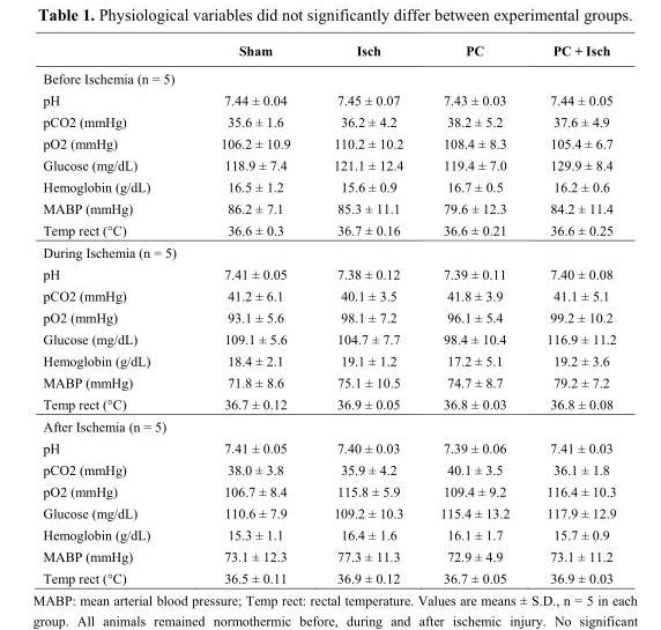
<table><thead><tr><td></td><td>Sham</td><td>Isch</td><td>PC</td><td>PC + Isch</td></tr></thead><tbody><tr><td colspan="5">Before Ischemia (n = 5)</td></tr><tr><td>pH</td><td>7.44 ± 0.04</td><td>7.45 ± 0.07</td><td>7.43 ± 0.03</td><td>7.44 ± 0.05</td></tr><tr><td>pCO2 (mmHg)</td><td>35.6 ± 1.6</td><td>36.2 ± 4.2</td><td>38.2 ± 5.2</td><td>37.6 ± 4.9</td></tr><tr><td>pO2 (mmHg)</td><td>106.2 ± 10.9</td><td>110.2 ± 10.2</td><td>108.4 ± 8.3</td><td>105.4 ± 6.7</td></tr><tr><td>Glucose (mg/dL)</td><td>118.9 ± 7.4</td><td>121.1 ± 12.4</td><td>119.4 ± 7.0</td><td>129.9 ± 8.4</td></tr><tr><td>Hemoglobin (g/dL)</td><td>16.5 ± 1.2</td><td>15.6 ± 0.9</td><td>16.7 ± 0.5</td><td>16.2 ± 0.6</td></tr><tr><td>MABP (mmHg)</td><td>86.2 ± 7.1</td><td>85.3 ± 11.1</td><td>79.6 ± 12.3</td><td>84.2 ± 11.4</td></tr><tr><td>Temp rect (°C)</td><td>36.6 ± 0.3</td><td>36.7 ± 0.16</td><td>36.6 ± 0.21</td><td>36.6 ± 0.25</td></tr><tr><td colspan="5">During Ischemia (n = 5)</td></tr><tr><td>pH</td><td>7.41 ± 0.05</td><td>7.38 ± 0.12</td><td>7.39 ± 0.11</td><td>7.40 ± 0.08</td></tr><tr><td>pCO2 (mmHg)</td><td>41.2 ± 6.1</td><td>40.1 ± 3.5</td><td>41.8 ± 3.9</td><td>41.1 ± 5.1</td></tr><tr><td>pO2 (mmHg)</td><td>93.1 ± 5.6</td><td>98.1 ± 7.2</td><td>96.1 ± 5.4</td><td>99.2 ± 10.2</td></tr><tr><td>Glucose (mg/dL)</td><td>109.1 ± 5.6</td><td>104.7 ± 7.7</td><td>98.4 ± 10.4</td><td>116.9 ± 11.2</td></tr><tr><td>Hemoglobin (g/dL)</td><td>18.4 ± 2.1</td><td>19.1 ± 1.2</td><td>17.2 ± 5.1</td><td>19.2 ± 3.6</td></tr><tr><td>MABP (mmHg)</td><td>71.8 ± 8.6</td><td>75.1 ± 10.5</td><td>74.7 ± 8.7</td><td>79.2 ± 7.2</td></tr><tr><td>Temp rect (°C)</td><td>36.7 ± 0.12</td><td>36.9 ± 0.05</td><td>36.8 ± 0.03</td><td>36.8 ± 0.08</td></tr><tr><td colspan="5">After Ischemia (n = 5)</td></tr><tr><td>pH</td><td>7.41 ± 0.05</td><td>7.40 ± 0.03</td><td>7.39 ± 0.06</td><td>7.41 ± 0.03</td></tr><tr><td>pCO2 (mmHg)</td><td>38.0 ± 3.8</td><td>35.9 ± 4.2</td><td>40.1 ± 3.5</td><td>36.1 ± 1.8</td></tr><tr><td>pO2 (mmHg)</td><td>106.7 ± 8.4</td><td>115.8 ± 5.9</td><td>109.4 ± 9.2</td><td>116.4 ± 10.3</td></tr><tr><td>Glucose (mg/dL)</td><td>110.6 ± 7.9</td><td>109.2 ± 10.3</td><td>115.4 ± 13.2</td><td>117.9 ± 12.9</td></tr><tr><td>Hemoglobin (g/dL)</td><td>15.3 ± 1.1</td><td>16.4 ± 1.6</td><td>16.1 ± 1.7</td><td>15.7 ± 0.9</td></tr><tr><td>MABP (mmHg)</td><td>73.1 ± 12.3</td><td>77.3 ± 11.3</td><td>72.9 ± 4.9</td><td>73.1 ± 11.2</td></tr><tr><td>Temp rect (°C)</td><td>36.5 ± 0.11</td><td>36.9 ± 0.12</td><td>36.7 ± 0.05</td><td>36.9 ± 0.03</td></tr></tbody></table>